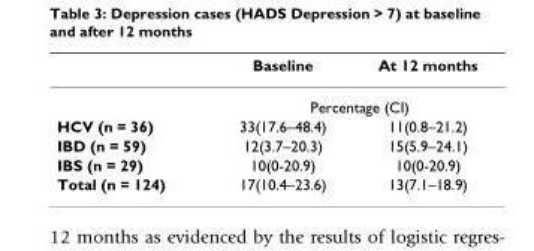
<table><thead><tr><td></td><td>Baseline</td><td>At 12 months</td></tr></thead><tbody><tr><td></td><td colspan="2">Percentage (CI)</td></tr><tr><td>HCV (n = 36)</td><td>33(17.6–48.4)</td><td>11(0.8–21.2)</td></tr><tr><td>IBD (n = 59)</td><td>12(3.7–20.3)</td><td>15(5.9–24.1)</td></tr><tr><td>IBS (n = 29)</td><td>10(0-20.9)</td><td>10(0-20.9)</td></tr><tr><td>Total (n = 124)</td><td>17(10.4–23.6)</td><td>13(7.1–18.9)</td></tr></tbody></table>